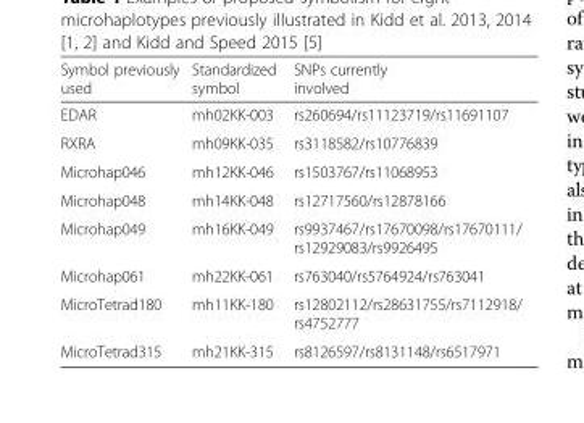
<table><thead><tr><td>Symbol previously used</td><td>Standardized symbol</td><td>SNPs currently involved</td></tr></thead><tbody><tr><td>EDAR</td><td>mh02KK-003</td><td>rs260694/rs11123719/rs11691107</td></tr><tr><td>RXRA</td><td>mh09KK-035</td><td>rs3118582/rs10776839</td></tr><tr><td>Microhap046</td><td>mh12KK-046</td><td>rs1503767/rs11068953</td></tr><tr><td>Microhap048</td><td>mh14KK-048</td><td>rs12717560/rs12878166</td></tr><tr><td>Microhap049</td><td>mh16KK-049</td><td>rs9937467/rs17670098/rs17670111/ rs12929083/rs9926495</td></tr><tr><td>Microhap061</td><td>mh22KK-061</td><td>rs763040/rs5764924/rs763041</td></tr><tr><td>MicroTetrad180</td><td>mh11KK-180</td><td>rs12802112/rs28631755/rs7112918/ rs4752777</td></tr><tr><td>MicroTetrad315</td><td>mh21KK-315</td><td>rs8126597/rs8131148/rs6517971</td></tr></tbody></table>